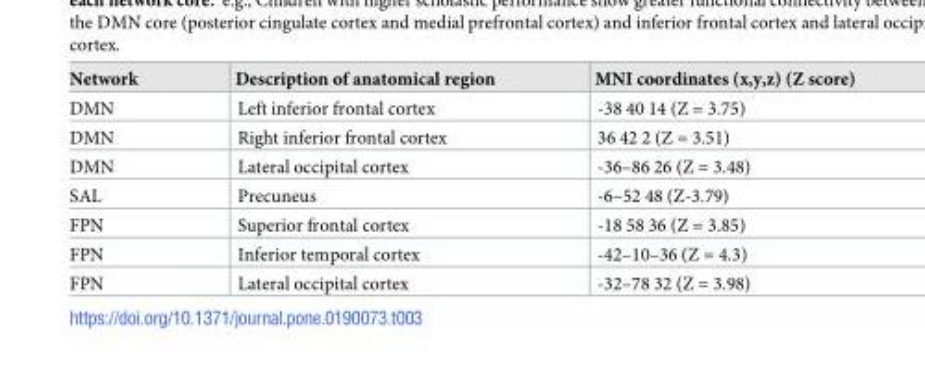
<table><thead><tr><td>Network</td><td>Description of anatomical region</td><td>MNI coordinates (x,y,z) (Z score)</td></tr></thead><tbody><tr><td>DMN</td><td>Left inferior frontal cortex</td><td>-38 40 14 (Z = 3.75)</td></tr><tr><td>DMN</td><td>Right inferior frontal cortex</td><td>36 42 2 (Z = 3.51)</td></tr><tr><td>DMN</td><td>Lateral occipital cortex</td><td>-36–86 26 (Z = 3.48)</td></tr><tr><td>SAL</td><td>Precuneus</td><td>-6–52 48 (Z-3.79)</td></tr><tr><td>FPN</td><td>Superior frontal cortex</td><td>-18 58 36 (Z = 3.85)</td></tr><tr><td>FPN</td><td>Inferior temporal cortex</td><td>-42–10–36 (Z = 4.3)</td></tr><tr><td>FPN</td><td>Lateral occipital cortex</td><td>-32–78 32 (Z = 3.98)</td></tr></tbody></table>